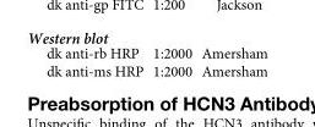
<table><tbody><tr><td>dk anti-rb HRP</td><td>1:2000</td><td>Amersham</td></tr><tr><td>dk anti-ms HRP</td><td>1:2000</td><td>Amersham</td></tr></tbody></table>